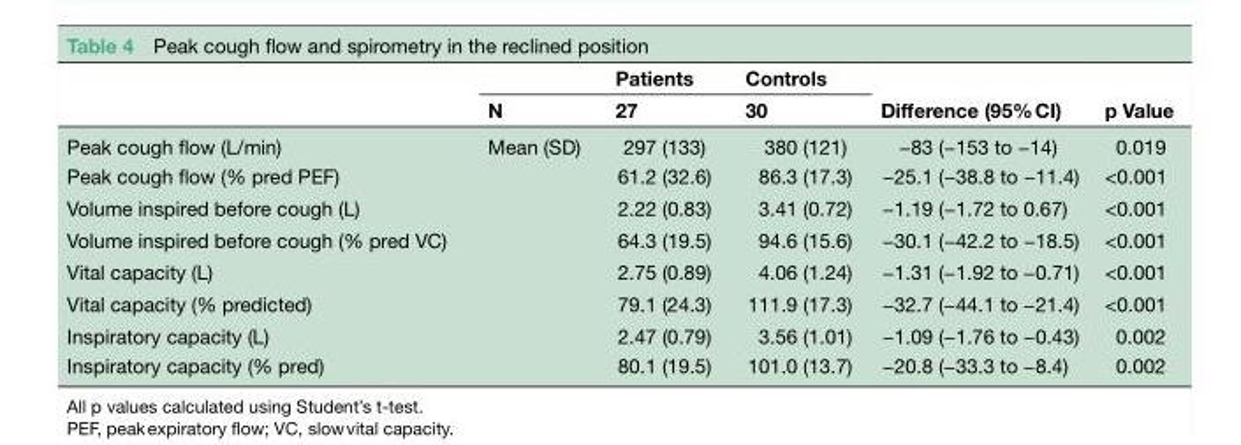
<table><thead><tr><td rowspan="2"></td><td rowspan="2">N</td><td rowspan="2">Patients 27</td><td rowspan="2">Controls 30</td><td rowspan="2">Difference (95% CI)</td><td rowspan="2">p Value</td></tr><tr></tr></thead><tbody><tr><td>Peak cough flow (L/min)</td><td rowspan="8">Mean (SD)</td><td>297 (133)</td><td>380 (121)</td><td>−83 (−153 to −14)</td><td>0.019</td></tr><tr><td>Peak cough flow (% pred PEF)</td><td>61.2 (32.6)</td><td>86.3 (17.3)</td><td>−25.1 (−38.8 to −11.4)</td><td>&lt;0.001</td></tr><tr><td>Volume inspired before cough (L)</td><td>2.22 (0.83)</td><td>3.41 (0.72)</td><td>−1.19 (−1.72 to 0.67)</td><td>&lt;0.001</td></tr><tr><td>Volume inspired before cough (% pred VC)</td><td>64.3 (19.5)</td><td>94.6 (15.6)</td><td>−30.1 (−42.2 to −18.5)</td><td>&lt;0.001</td></tr><tr><td>Vital capacity (L)</td><td>2.75 (0.89)</td><td>4.06 (1.24)</td><td>−1.31 (−1.92 to −0.71)</td><td>&lt;0.001</td></tr><tr><td>Vital capacity (% predicted)</td><td>79.1 (24.3)</td><td>111.9 (17.3)</td><td>−32.7 (−44.1 to −21.4)</td><td>&lt;0.001</td></tr><tr><td>Inspiratory capacity (L)</td><td>2.47 (0.79)</td><td>3.56 (1.01)</td><td>−1.09 (−1.76 to −0.43)</td><td>0.002</td></tr><tr><td>Inspiratory capacity (% pred)</td><td>80.1 (19.5)</td><td>101.0 (13.7)</td><td>−20.8 (−33.3 to −8.4)</td><td>0.002</td></tr></tbody></table>